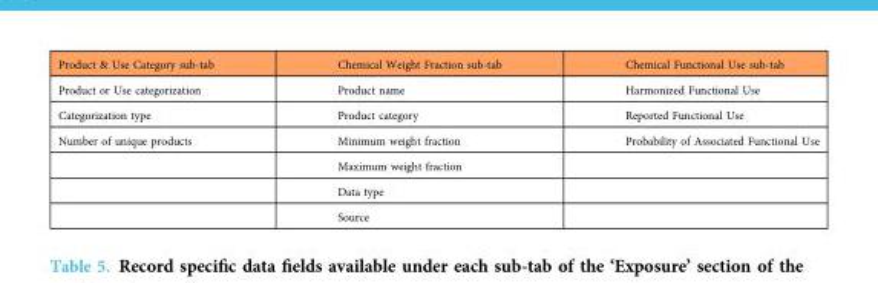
<table><thead><tr><td>Product &amp; Use Category sub-tab</td><td>Chemical Weight Fraction sub-tab</td><td>Chemical Functional Use sub-tab</td></tr></thead><tbody><tr><td>Product or Use categorization</td><td>Product name</td><td>Harmonized Functional Use</td></tr><tr><td>Categorization type</td><td>Product category</td><td>Reported Functional Use</td></tr><tr><td rowspan="4">Number of unique products</td><td>Minimum weight fraction</td><td>Probability of Associated Functional Use</td></tr><tr><td>Maximum weight fraction</td><td></td></tr><tr><td>Data type</td><td></td></tr><tr><td>Source</td><td></td></tr></tbody></table>